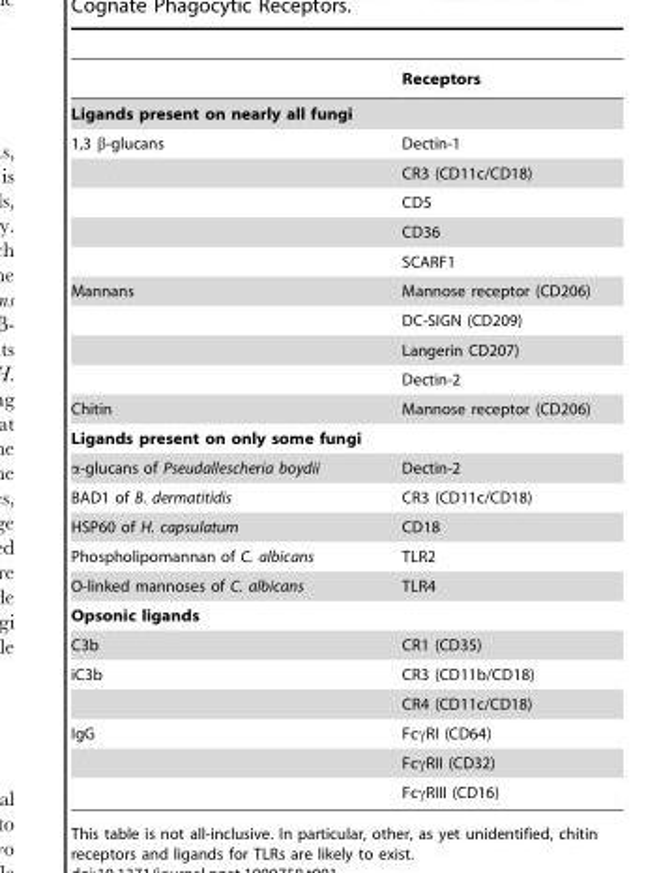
<table><thead><tr><td></td><td>Receptors</td></tr></thead><tbody><tr><td colspan="2">Ligands present on nearly all fungi</td></tr><tr><td rowspan="5">1,3 β-glucans</td><td>Dectin-1</td></tr><tr><td>CR3 (CD11c/CD18)</td></tr><tr><td>CD5</td></tr><tr><td>CD36</td></tr><tr><td>SCARF1</td></tr><tr><td rowspan="4">Mannans</td><td>Mannose receptor (CD206)</td></tr><tr><td>DC-SIGN (CD209)</td></tr><tr><td>Langerin CD207)</td></tr><tr><td>Dectin-2</td></tr><tr><td>Chitin</td><td>Mannose receptor (CD206)</td></tr><tr><td colspan="2">Ligands present on only some fungi</td></tr><tr><td>α-glucans of Pseudallescheria boydii</td><td>Dectin-2</td></tr><tr><td>BAD1 of B. dermatitidis</td><td>CR3 (CD11c/CD18)</td></tr><tr><td>HSP60 of H. capsulatum</td><td>CD18</td></tr><tr><td>Phospholipomannan of C. albicans</td><td>TLR2</td></tr><tr><td>O-linked mannoses of C. albicans</td><td>TLR4</td></tr><tr><td colspan="2">Opsonic ligands</td></tr><tr><td>C3b</td><td>CR1 (CD35)</td></tr><tr><td rowspan="2">iC3b</td><td>CR3 (CD11b/CD18)</td></tr><tr><td>CR4 (CD11c/CD18)</td></tr><tr><td rowspan="3">IgG</td><td>FcγRI (CD64)</td></tr><tr><td>FcγRII (CD32)</td></tr><tr><td>FcγRIII (CD16)</td></tr></tbody></table>